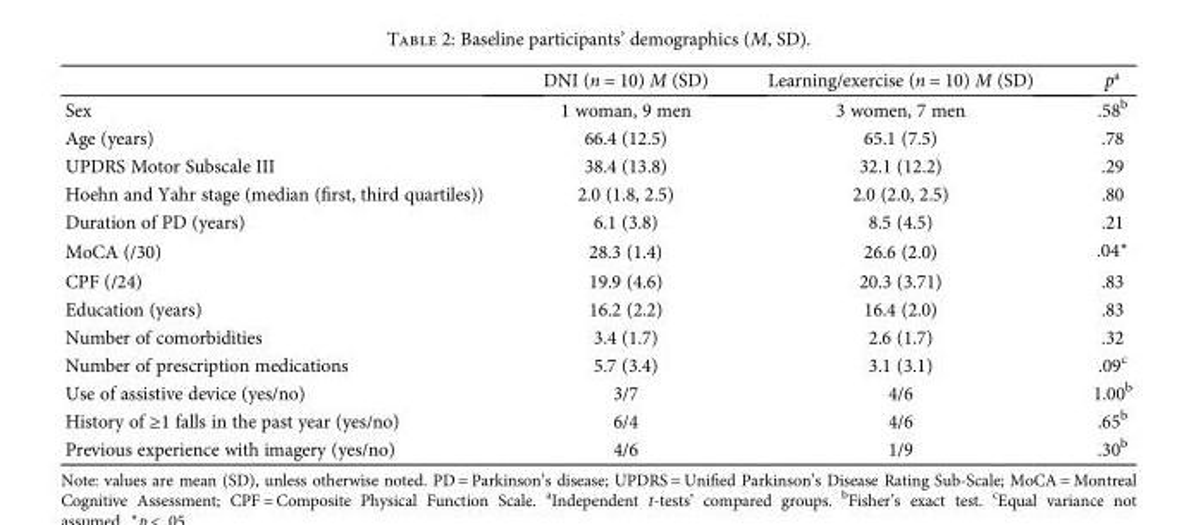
<table><thead><tr><td></td><td>DNI (n = 10) M (SD)</td><td>Learning/exercise (n = 10) M (SD)</td><td>p<sup>a</sup></td></tr></thead><tbody><tr><td>Sex</td><td>1 woman, 9 men</td><td>3 women, 7 men</td><td>.58<sup>b</sup></td></tr><tr><td>Age (years)</td><td>66.4 (12.5)</td><td>65.1 (7.5)</td><td>.78</td></tr><tr><td>UPDRS Motor Subscale III</td><td>38.4 (13.8)</td><td>32.1 (12.2)</td><td>.29</td></tr><tr><td>Hoehn and Yahr stage (median (first, third quartiles))</td><td>2.0 (1.8, 2.5)</td><td>2.0 (2.0, 2.5)</td><td>.80</td></tr><tr><td>Duration of PD (years)</td><td>6.1 (3.8)</td><td>8.5 (4.5)</td><td>.21</td></tr><tr><td>MoCA (/30)</td><td>28.3 (1.4)</td><td>26.6 (2.0)</td><td>.04∗</td></tr><tr><td>CPF (/24)</td><td>19.9 (4.6)</td><td>20.3 (3.71)</td><td>.83</td></tr><tr><td>Education (years)</td><td>16.2 (2.2)</td><td>16.4 (2.0)</td><td>.83</td></tr><tr><td>Number of comorbidities</td><td>3.4 (1.7)</td><td>2.6 (1.7)</td><td>.32</td></tr><tr><td>Number of prescription medications</td><td>5.7 (3.4)</td><td>3.1 (3.1)</td><td>.09<sup>c</sup></td></tr><tr><td>Use of assistive device (yes/no)</td><td>3/7</td><td>4/6</td><td>1.00<sup>b</sup></td></tr><tr><td>History of ≥1 falls in the past year (yes/no)</td><td>6/4</td><td>4/6</td><td>.65<sup>b</sup></td></tr><tr><td>Previous experience with imagery (yes/no)</td><td>4/6</td><td>1/9</td><td>.30<sup>b</sup></td></tr></tbody></table>